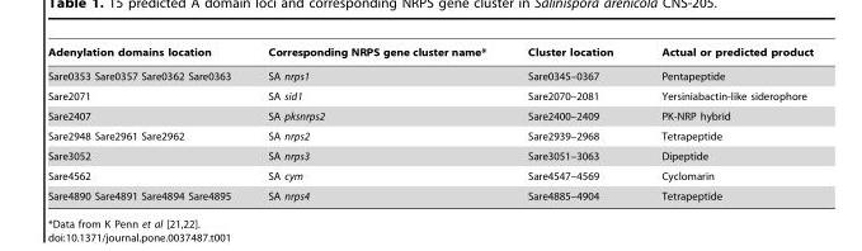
<table><thead><tr><td>Adenylation domains location</td><td>Corresponding NRPS gene cluster name*</td><td>Cluster location</td><td>Actual or predicted product</td></tr></thead><tbody><tr><td>Sare0353 Sare0357 Sare0362 Sare0363</td><td>SA nrps1</td><td>Sare0345–0367</td><td>Pentapeptide</td></tr><tr><td>Sare2071</td><td>SA sid1</td><td>Sare2070–2081</td><td>Yersiniabactin-like siderophore</td></tr><tr><td>Sare2407</td><td>SA pksnrps2</td><td>Sare2400–2409</td><td>PK-NRP hybrid</td></tr><tr><td>Sare2948 Sare2961 Sare2962</td><td>SA nrps2</td><td>Sare2939–2968</td><td>Tetrapeptide</td></tr><tr><td>Sare3052</td><td>SA nrps3</td><td>Sare3051–3063</td><td>Dipeptide</td></tr><tr><td>Sare4562</td><td>SA cym</td><td>Sare4547–4569</td><td>Cyclomarin</td></tr><tr><td>Sare4890 Sare4891 Sare4894 Sare4895</td><td>SA nrps4</td><td>Sare4885–4904</td><td>Tetrapeptide</td></tr></tbody></table>